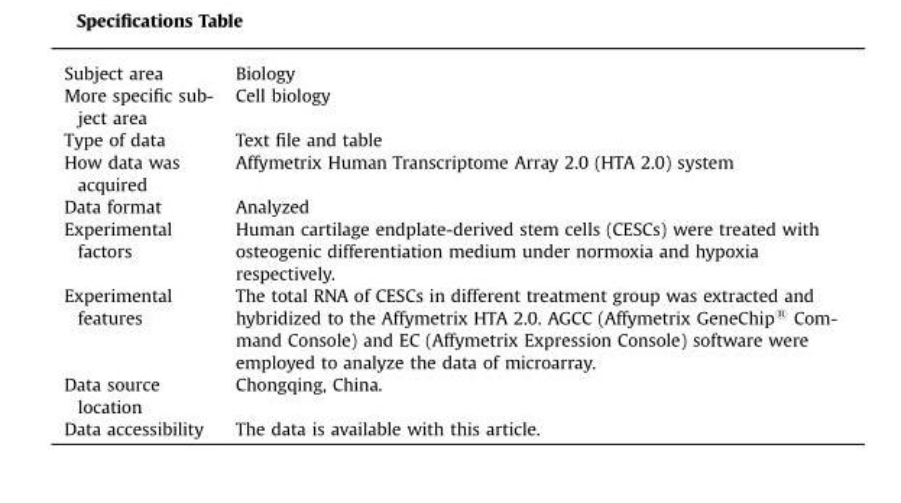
<table><tbody><tr><td>Subject area</td><td>Biology</td></tr><tr><td>More specific sub- ject area</td><td>Cell biology</td></tr><tr><td>Type of data</td><td>Text file and table</td></tr><tr><td>How data was acquired</td><td>Affymetrix Human Transcriptome Array 2.0 (HTA 2.0) system</td></tr><tr><td>Data format</td><td>Analyzed</td></tr><tr><td>Experimental factors</td><td>Human cartilage endplate-derived stem cells (CESCs) were treated with osteogenic differentiation medium under normoxia and hypoxia respectively.</td></tr><tr><td>Experimental features</td><td>The total RNA of CESCs in different treatment group was extracted and hybridized to the Affymetrix HTA 2.0. AGCC (Affymetrix GeneChips Com- mand Console) and EC (Affymetrix Expression Console) software were employed to analyze the data of microarray.</td></tr><tr><td>Data source location</td><td>Chongqing, China.</td></tr><tr><td>Data accessibility</td><td>The data is available with this article.</td></tr></tbody></table>